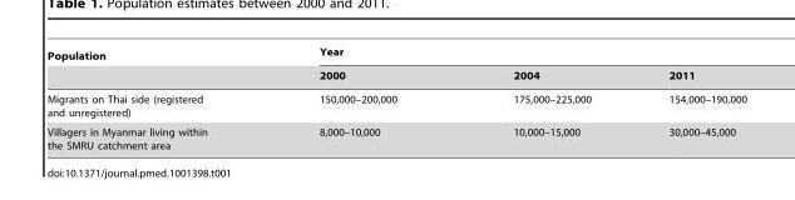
<table><thead><tr><td rowspan="2">Population</td><td colspan="3">Year</td></tr><tr><td>2000</td><td>2004</td><td>2011</td></tr></thead><tbody><tr><td>Migrants on Thai side (registered and unregistered)</td><td>150,000–200,000</td><td>175,000–225,000</td><td>154,000–190,000</td></tr><tr><td>Villagers in Myanmar living within the SMRU catchment area</td><td>8,000–10,000</td><td>10,000–15,000</td><td>30,000–45,000</td></tr></tbody></table>